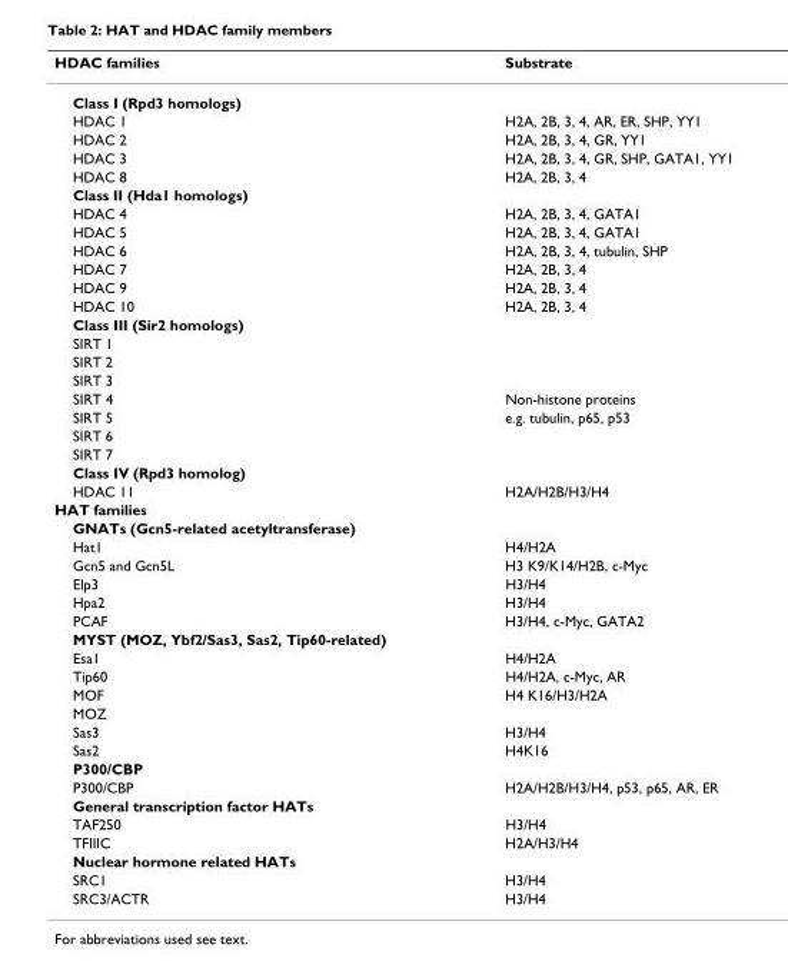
<table><thead><tr><td>HDAC families</td><td>Substrate</td></tr></thead><tbody><tr><td colspan="2">Class I (Rpd3 homologs)</td></tr><tr><td>HDAC 1</td><td>H2A, 2B, 3, 4, AR, ER, SHP, YY1</td></tr><tr><td>HDAC 2</td><td>H2A, 2B, 3, 4, GR, YY1</td></tr><tr><td>HDAC 3</td><td>H2A, 2B, 3, 4, GR, SHP, GATA1, YY1</td></tr><tr><td>HDAC 8</td><td>H2A, 2B, 3, 4</td></tr><tr><td colspan="2">Class II (Hda1 homologs)</td></tr><tr><td>HDAC 4</td><td>H2A, 2B, 3, 4, GATA1</td></tr><tr><td>HDAC 5</td><td>H2A, 2B, 3, 4, GATA1</td></tr><tr><td>HDAC 6</td><td>H2A, 2B, 3, 4, tubulin, SHP</td></tr><tr><td>HDAC 7</td><td>H2A, 2B, 3, 4</td></tr><tr><td>HDAC 9</td><td>H2A, 2B, 3, 4</td></tr><tr><td>HDAC 10</td><td>H2A, 2B, 3, 4</td></tr><tr><td colspan="2">Class III (Sir2 homologs)</td></tr><tr><td colspan="2">SIRT 1</td></tr><tr><td colspan="2">SIRT 2</td></tr><tr><td colspan="2">SIRT 3</td></tr><tr><td>SIRT 4</td><td>Non-histone proteins</td></tr><tr><td>SIRT 5</td><td>e.g. tubulin, p65, p53</td></tr><tr><td colspan="2">SIRT 6</td></tr><tr><td colspan="2">SIRT 7</td></tr><tr><td colspan="2">Class IV (Rpd3 homolog)</td></tr><tr><td>HDAC 11</td><td>H2A/H2B/H3/H4</td></tr><tr><td colspan="2">HAT families</td></tr><tr><td colspan="2">GNATs (Gcn5-related acetyltransferase)</td></tr><tr><td>Hat1</td><td>H4/H2A</td></tr><tr><td>Gcn5 and Gcn5L</td><td>H3 K9/K14/H2B, c-Myc</td></tr><tr><td>Elp3</td><td>H3/H4</td></tr><tr><td>Hpa2</td><td>H3/H4</td></tr><tr><td>PCAF</td><td>H3/H4, c-Myc, GATA2</td></tr><tr><td colspan="2">MYST (MOZ, Ybf2/Sas3, Sas2, Tip60-related)</td></tr><tr><td>Esa1</td><td>H4/H2A</td></tr><tr><td>Tip60</td><td>H4/H2A, c-Myc, AR</td></tr><tr><td>MOF</td><td>H4 K16/H3/H2A</td></tr><tr><td colspan="2">MOZ</td></tr><tr><td>Sas3</td><td>H3/H4</td></tr><tr><td>Sas2</td><td>H4K16</td></tr><tr><td colspan="2">P300/CBP</td></tr><tr><td>P300/CBP</td><td>H2A/H2B/H3/H4, p53, p65, AR, ER</td></tr><tr><td colspan="2">General transcription factor HATs</td></tr><tr><td>TAF250</td><td>H3/H4</td></tr><tr><td>TFIIIC</td><td>H2A/H3/H4</td></tr><tr><td colspan="2">Nuclear hormone related HATs</td></tr><tr><td>SRC1</td><td>H3/H4</td></tr><tr><td>SRC3/ACTR</td><td>H3/H4</td></tr></tbody></table>